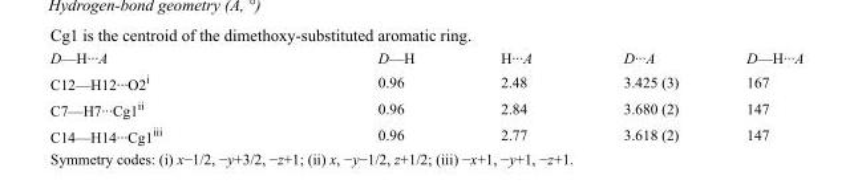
<table><tbody><tr><td>D—H···A</td><td>D—H</td><td>H···A</td><td>D···A</td><td>D—H···A</td></tr><tr><td>C12—H12···O2<sup>i</sup></td><td>0.96</td><td>2.48</td><td>3.425 (3)</td><td>167</td></tr><tr><td>C7—H7···Cg1<sup>ii</sup></td><td>0.96</td><td>2.84</td><td>3.680 (2)</td><td>147</td></tr><tr><td>C14—H14···Cg1<sup>iii</sup></td><td>0.96</td><td>2.77</td><td>3.618 (2)</td><td>147</td></tr></tbody></table>